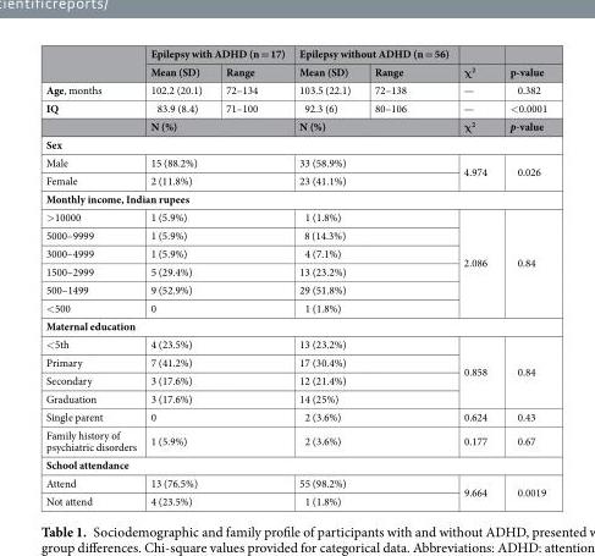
<table><thead><tr><td rowspan="2"></td><td colspan="2">Epilepsy with ADHD (n = 17)</td><td colspan="2">Epilepsy without ADHD (n = 56)</td><td rowspan="2">χ2</td><td rowspan="2">p-value</td></tr><tr><td>Mean (SD)</td><td>Range</td><td>Mean (SD)</td><td>Range</td></tr></thead><tbody><tr><td>Age, months</td><td>102.2 (20.1)</td><td>72–134</td><td>103.5 (22.1)</td><td>72–138</td><td>—</td><td>0.382</td></tr><tr><td rowspan="2">IQ</td><td>83.9 (8.4)</td><td>71–100</td><td>92.3 (6)</td><td>80–106</td><td>—</td><td>&lt;0.0001</td></tr><tr><td colspan="2">N (%)</td><td colspan="2">N (%)</td><td>χ<sup>2</sup></td><td>p-value</td></tr><tr><td colspan="7">Sex</td></tr><tr><td>Male</td><td colspan="2">15 (88.2%)</td><td colspan="2">33 (58.9%)</td><td rowspan="2">4.974</td><td rowspan="2">0.026</td></tr><tr><td>Female</td><td colspan="2">2 (11.8%)</td><td colspan="2">23 (41.1%)</td></tr><tr><td colspan="7">Monthly income, Indian rupees</td></tr><tr><td>&gt;10000</td><td colspan="2">1 (5.9%)</td><td colspan="2">1 (1.8%)</td><td rowspan="6">2.086</td><td rowspan="6">0.84</td></tr><tr><td>5000–9999</td><td colspan="2">1 (5.9%)</td><td colspan="2">8 (14.3%)</td></tr><tr><td>3000–4999</td><td colspan="2">1 (5.9%)</td><td colspan="2">4 (7.1%)</td></tr><tr><td>1500–2999</td><td colspan="2">5 (29.4%)</td><td colspan="2">13 (23.2%)</td></tr><tr><td>500–1499</td><td colspan="2">9 (52.9%)</td><td colspan="2">29 (51.8%)</td></tr><tr><td>&lt;500</td><td colspan="2">0</td><td colspan="2">1 (1.8%)</td></tr><tr><td colspan="7">Maternal education</td></tr><tr><td>&lt;5th</td><td colspan="2">4 (23.5%)</td><td colspan="2">13 (23.2%)</td><td rowspan="4">0.858</td><td rowspan="4">0.84</td></tr><tr><td>Primary</td><td colspan="2">7 (41.2%)</td><td colspan="2">17 (30.4%)</td></tr><tr><td>Secondary</td><td colspan="2">3 (17.6%)</td><td colspan="2">12 (21.4%)</td></tr><tr><td>Graduation</td><td colspan="2">3 (17.6%)</td><td colspan="2">14 (25%)</td></tr><tr><td>Single parent</td><td colspan="2">0</td><td colspan="2">2 (3.6%)</td><td>0.624</td><td>0.43</td></tr><tr><td>Family history of psychiatric disorders</td><td colspan="2">1 (5.9%)</td><td colspan="2">2 (3.6%)</td><td>0.177</td><td>0.67</td></tr><tr><td colspan="7">School attendance</td></tr><tr><td>Attend</td><td colspan="2">13 (76.5%)</td><td colspan="2">55 (98.2%)</td><td rowspan="2">9.664</td><td rowspan="2">0.0019</td></tr><tr><td>Not attend</td><td colspan="2">4 (23.5%)</td><td colspan="2">1 (1.8%)</td></tr></tbody></table>